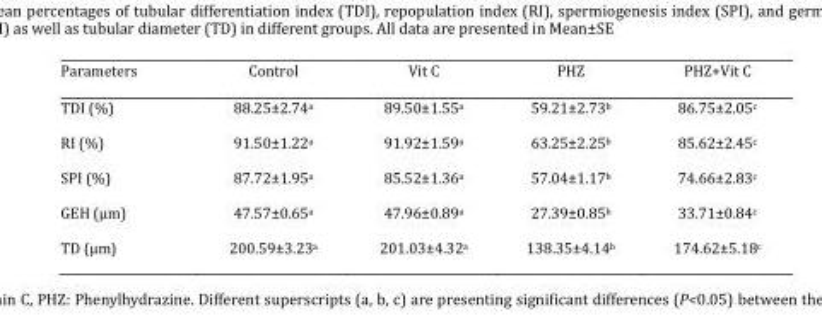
<table><thead><tr><td>Parameters</td><td>Control</td><td>Vit C</td><td>PHZ</td><td>PHZ+Vit C</td></tr></thead><tbody><tr><td>TDI (%)</td><td>88.25±2.74<sup>a</sup></td><td>89.50±1.55<sup>a</sup></td><td>59.21±2.73<sup>b</sup></td><td>86.75±2.05<sup>c</sup></td></tr><tr><td>RI (%)</td><td>91.50±1.22<sup>a</sup></td><td>91.92±1.59<sup>a</sup></td><td>63.25±2.25<sup>b</sup></td><td>85.62±2.45<sup>c</sup></td></tr><tr><td>SPI (%)</td><td>87.72±1.95<sup>a</sup></td><td>85.52±1.36<sup>a</sup></td><td>57.04±1.17<sup>b</sup></td><td>74.66±2.83<sup>c</sup></td></tr><tr><td>GEH (µm)</td><td>47.57±0.65<sup>a</sup></td><td>47.96±0.89<sup>a</sup></td><td>27.39±0.85<sup>b</sup></td><td>33.71±0.84<sup>c</sup></td></tr><tr><td>TD (µm)</td><td>200.59±3.23<sup>a</sup></td><td>201.03±4.32<sup>a</sup></td><td>138.35±4.14<sup>b</sup></td><td>174.62±5.18<sup>c</sup></td></tr></tbody></table>